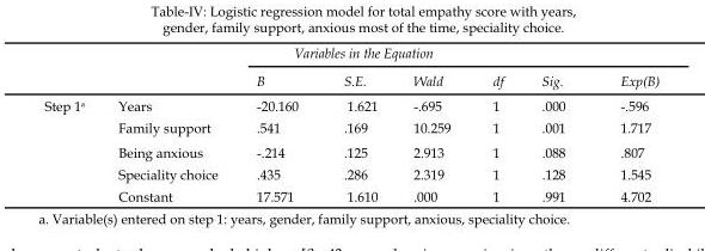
<table><thead><tr><td rowspan="2"></td><td rowspan="2"></td><td colspan="3">Variables in the Equation</td><td rowspan="2">df</td><td rowspan="2">Sig.</td><td rowspan="2">Exp(B)</td></tr><tr><td>B</td><td>S.E.</td><td>Wald</td></tr></thead><tbody><tr><td rowspan="5">Step 1<sup>a</sup></td><td>Years</td><td>-20.160</td><td>1.621</td><td>-.695</td><td>1</td><td>.000</td><td>-.596</td></tr><tr><td>Family support</td><td>.541</td><td>.169</td><td>10.259</td><td>1</td><td>.001</td><td>1.717</td></tr><tr><td>Being anxious</td><td>-.214</td><td>.125</td><td>2.913</td><td>1</td><td>.088</td><td>.807</td></tr><tr><td>Speciality choice</td><td>.435</td><td>.286</td><td>2.319</td><td>1</td><td>.128</td><td>1.545</td></tr><tr><td>Constant</td><td>17.571</td><td>1.610</td><td>.000</td><td>1</td><td>.991</td><td>4.702</td></tr></tbody></table>